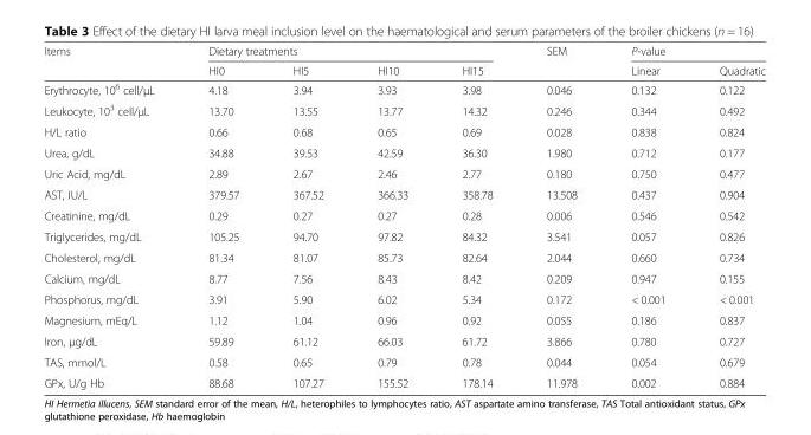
<table><thead><tr><td rowspan="2">Items</td><td colspan="4">Dietary treatments</td><td rowspan="2">SEM</td><td colspan="2">P-value</td></tr><tr><td>HI0</td><td>HI5</td><td>HI10</td><td>HI15</td><td>Linear</td><td>Quadratic</td></tr></thead><tbody><tr><td>Erythrocyte, 10<sup>6</sup> cell/μL</td><td>4.18</td><td>3.94</td><td>3.93</td><td>3.98</td><td>0.046</td><td>0.132</td><td>0.122</td></tr><tr><td>Leukocyte, 10<sup>3</sup> cell/μL</td><td>13.70</td><td>13.55</td><td>13.77</td><td>14.32</td><td>0.246</td><td>0.344</td><td>0.492</td></tr><tr><td>H/L ratio</td><td>0.66</td><td>0.68</td><td>0.65</td><td>0.69</td><td>0.028</td><td>0.838</td><td>0.824</td></tr><tr><td>Urea, g/dL</td><td>34.88</td><td>39.53</td><td>42.59</td><td>36.30</td><td>1.980</td><td>0.712</td><td>0.177</td></tr><tr><td>Uric Acid, mg/dL</td><td>2.89</td><td>2.67</td><td>2.46</td><td>2.77</td><td>0.180</td><td>0.750</td><td>0.477</td></tr><tr><td>AST, IU/L</td><td>379.57</td><td>367.52</td><td>366.33</td><td>358.78</td><td>13.508</td><td>0.437</td><td>0.904</td></tr><tr><td>Creatinine, mg/dL</td><td>0.29</td><td>0.27</td><td>0.27</td><td>0.28</td><td>0.006</td><td>0.546</td><td>0.542</td></tr><tr><td>Triglycerides, mg/dL</td><td>105.25</td><td>94.70</td><td>97.82</td><td>84.32</td><td>3.541</td><td>0.057</td><td>0.826</td></tr><tr><td>Cholesterol, mg/dL</td><td>81.34</td><td>81.07</td><td>85.73</td><td>82.64</td><td>2.044</td><td>0.660</td><td>0.734</td></tr><tr><td>Calcium, mg/dL</td><td>8.77</td><td>7.56</td><td>8.43</td><td>8.42</td><td>0.209</td><td>0.947</td><td>0.155</td></tr><tr><td>Phosphorus, mg/dL</td><td>3.91</td><td>5.90</td><td>6.02</td><td>5.34</td><td>0.172</td><td>&lt; 0.001</td><td>&lt; 0.001</td></tr><tr><td>Magnesium, mEq/L</td><td>1.12</td><td>1.04</td><td>0.96</td><td>0.92</td><td>0.055</td><td>0.186</td><td>0.837</td></tr><tr><td>Iron, μg/dL</td><td>59.89</td><td>61.12</td><td>66.03</td><td>61.72</td><td>3.866</td><td>0.780</td><td>0.727</td></tr><tr><td>TAS, mmol/L</td><td>0.58</td><td>0.65</td><td>0.79</td><td>0.78</td><td>0.044</td><td>0.054</td><td>0.679</td></tr><tr><td>GPx, U/g Hb</td><td>88.68</td><td>107.27</td><td>155.52</td><td>178.14</td><td>11.978</td><td>0.002</td><td>0.884</td></tr></tbody></table>